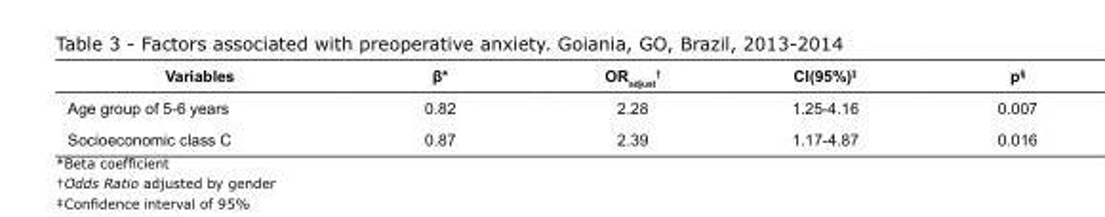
<table><tbody><tr><td>Variables</td><td>β*</td><td>OR<sub>adjust</sub> <sup>†</sup></td><td>CI(95%)<sup>‡</sup></td><td>p<sup>§</sup></td></tr><tr><td>Age group of 5-6 years</td><td>0.82</td><td>2.28</td><td>1.25-4.16</td><td>0.007</td></tr><tr><td>Socioeconomic class C</td><td>0.87</td><td>2.39</td><td>1.17-4.87</td><td>0.016</td></tr></tbody></table>